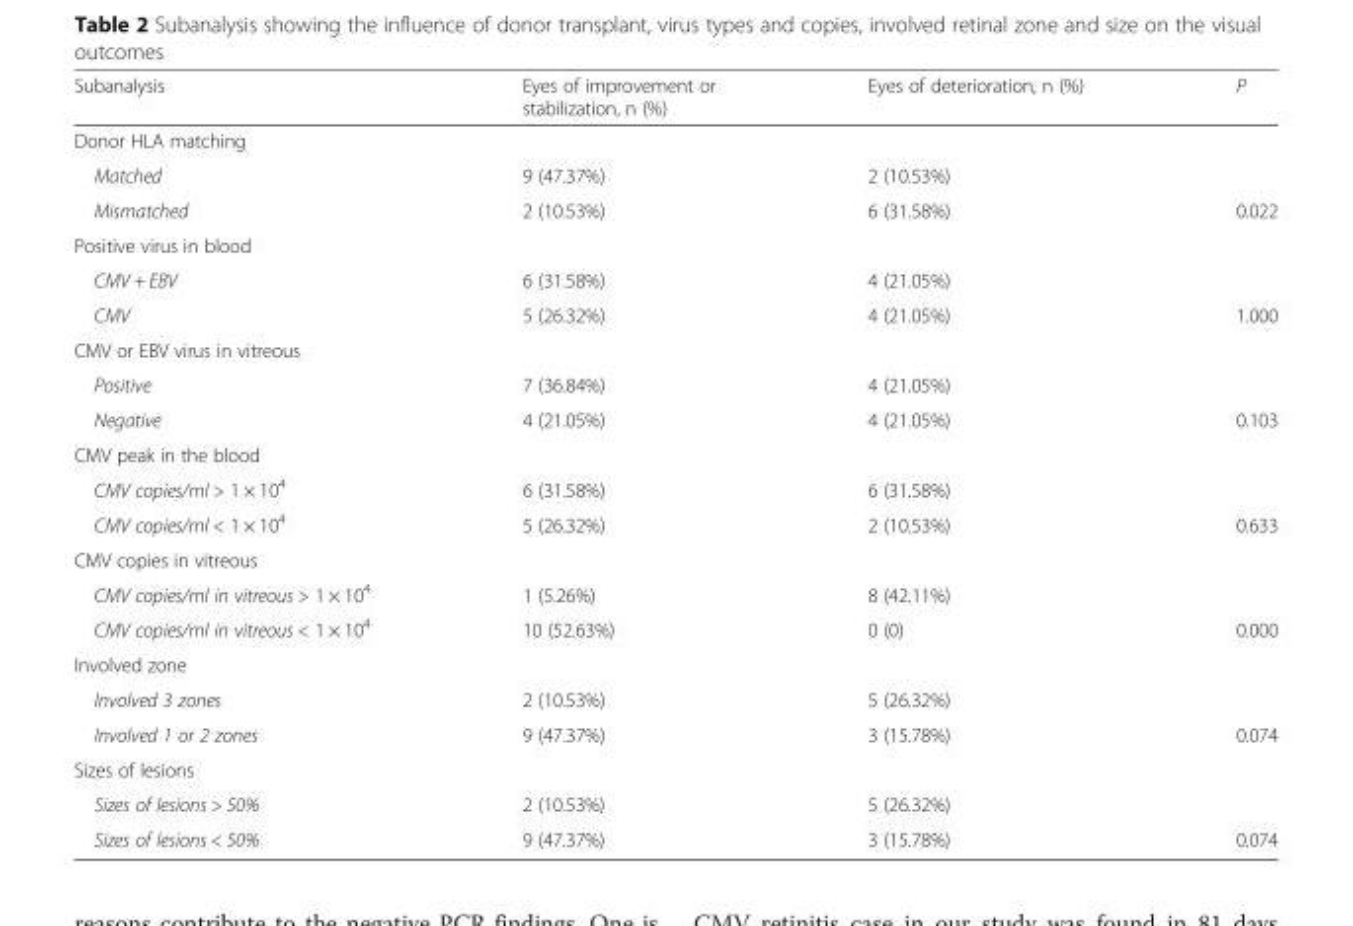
<table><thead><tr><td>Subanalysis</td><td>Eyes of improvement or stabilization, n (%)</td><td>Eyes of deterioration, n (%)</td><td>P</td></tr></thead><tbody><tr><td colspan="4">Donor HLA matching</td></tr><tr><td>Matched</td><td>9 (47.37%)</td><td>2 (10.53%)</td><td></td></tr><tr><td>Mismatched</td><td>2 (10.53%)</td><td>6 (31.58%)</td><td>0.022</td></tr><tr><td colspan="4">Positive virus in blood</td></tr><tr><td>CMV + EBV</td><td>6 (31.58%)</td><td>4 (21.05%)</td><td></td></tr><tr><td>CMV</td><td>5 (26.32%)</td><td>4 (21.05%)</td><td>1.000</td></tr><tr><td colspan="4">CMV or EBV virus in vitreous</td></tr><tr><td>Positive</td><td>7 (36.84%)</td><td>4 (21.05%)</td><td></td></tr><tr><td>Negative</td><td>4 (21.05%)</td><td>4 (21.05%)</td><td>0.103</td></tr><tr><td colspan="4">CMV peak in the blood</td></tr><tr><td>CMV copies/ml &gt; 1 × 10<sup>4</sup></td><td>6 (31.58%)</td><td>6 (31.58%)</td><td></td></tr><tr><td>CMV copies/ml &lt; 1 × 10<sup>4</sup></td><td>5 (26.32%)</td><td>2 (10.53%)</td><td>0.633</td></tr><tr><td colspan="4">CMV copies in vitreous</td></tr><tr><td>CMV copies/ml in vitreous &gt; 1 × 10<sup>4</sup></td><td>1 (5.26%)</td><td>8 (42.11%)</td><td></td></tr><tr><td>CMV copies/ml in vitreous &lt; 1 × 10<sup>4</sup></td><td>10 (52.63%)</td><td>0 (0)</td><td>0.000</td></tr><tr><td colspan="4">Involved zone</td></tr><tr><td>Involved 3 zones</td><td>2 (10.53%)</td><td>5 (26.32%)</td><td></td></tr><tr><td>Involved 1 or 2 zones</td><td>9 (47.37%)</td><td>3 (15.78%)</td><td>0.074</td></tr><tr><td colspan="4">Sizes of lesions</td></tr><tr><td>Sizes of lesions &gt; 50%</td><td>2 (10.53%)</td><td>5 (26.32%)</td><td></td></tr><tr><td>Sizes of lesions &lt; 50%</td><td>9 (47.37%)</td><td>3 (15.78%)</td><td>0.074</td></tr></tbody></table>